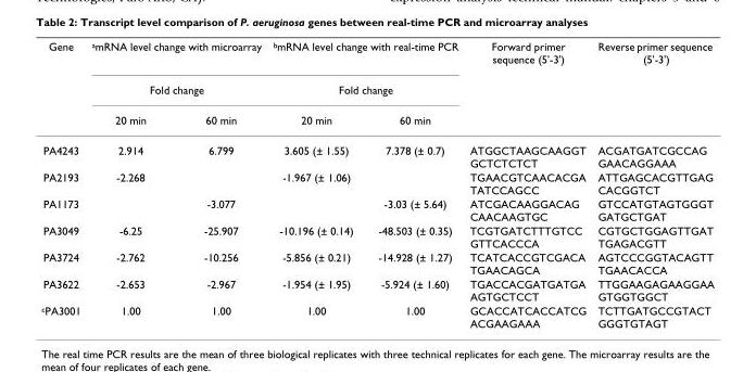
<table><thead><tr><td rowspan="3">Gene</td><td rowspan="2" colspan="2"><sup>a</sup>mRNA level change with microarray Fold change</td><td rowspan="2" colspan="2"><sup>b</sup>mRNA level change with real-time PCR Fold change</td><td rowspan="3">Forward primer sequence (5&#x27;-3&#x27;)</td><td rowspan="3">Reverse primer sequence (5&#x27;-3&#x27;)</td></tr><tr></tr><tr><td>20 min</td><td>60 min</td><td>20 min</td><td>60 min</td></tr></thead><tbody><tr><td>PA4243</td><td>2.914</td><td>6.799</td><td>3.605 (± 1.55)</td><td>7.378 (± 0.7)</td><td>ATGGCTAAGCAAGGT GCTCTCTCT</td><td>ACGATGATCGCCAG GAACAGGAAA</td></tr><tr><td>PA2193</td><td>-2.268</td><td></td><td>-1.967 (± 1.06)</td><td></td><td>TGAACGTCAACACGA TATCCAGCC</td><td>ATTGAGCACGTTGAG CACGGTCT</td></tr><tr><td>PA1173</td><td></td><td>-3.077</td><td></td><td>-3.03 (± 5.64)</td><td>ATCGACAAGGACAG CAACAAGTGC</td><td>GTCCATGTAGTGGGT GATGCTGAT</td></tr><tr><td>PA3049</td><td>-6.25</td><td>-25.907</td><td>-10.196 (± 0.14)</td><td>-48.503 (± 0.35)</td><td>TCGTGATCTTTGTCC GTTCACCCA</td><td>CGTGCTGGAGTTGAT TGAGACGTT</td></tr><tr><td>PA3724</td><td>-2.762</td><td>-10.256</td><td>-5.856 (± 0.21)</td><td>-14.928 (± 1.27)</td><td>TCATCACCGTCGACA TGAACAGCA</td><td>AGTCCCGGTACAGTT TGAACACCA</td></tr><tr><td>PA3622</td><td>-2.653</td><td>-2.967</td><td>-1.954 (± 1.95)</td><td>-5.924 (± 1.60)</td><td>TGACCACGATGATGA AGTGCTCCT</td><td>TTGGAAGAGAAGGAA GTGGTGGCT</td></tr><tr><td><sup>c</sup>PA3001</td><td>1.00</td><td>1.00</td><td>1.00</td><td>1.00</td><td>GCACCATCACCATCG ACGAAGAAA</td><td>TCTTGATGCCGTACT GGGTGTAGT</td></tr></tbody></table>